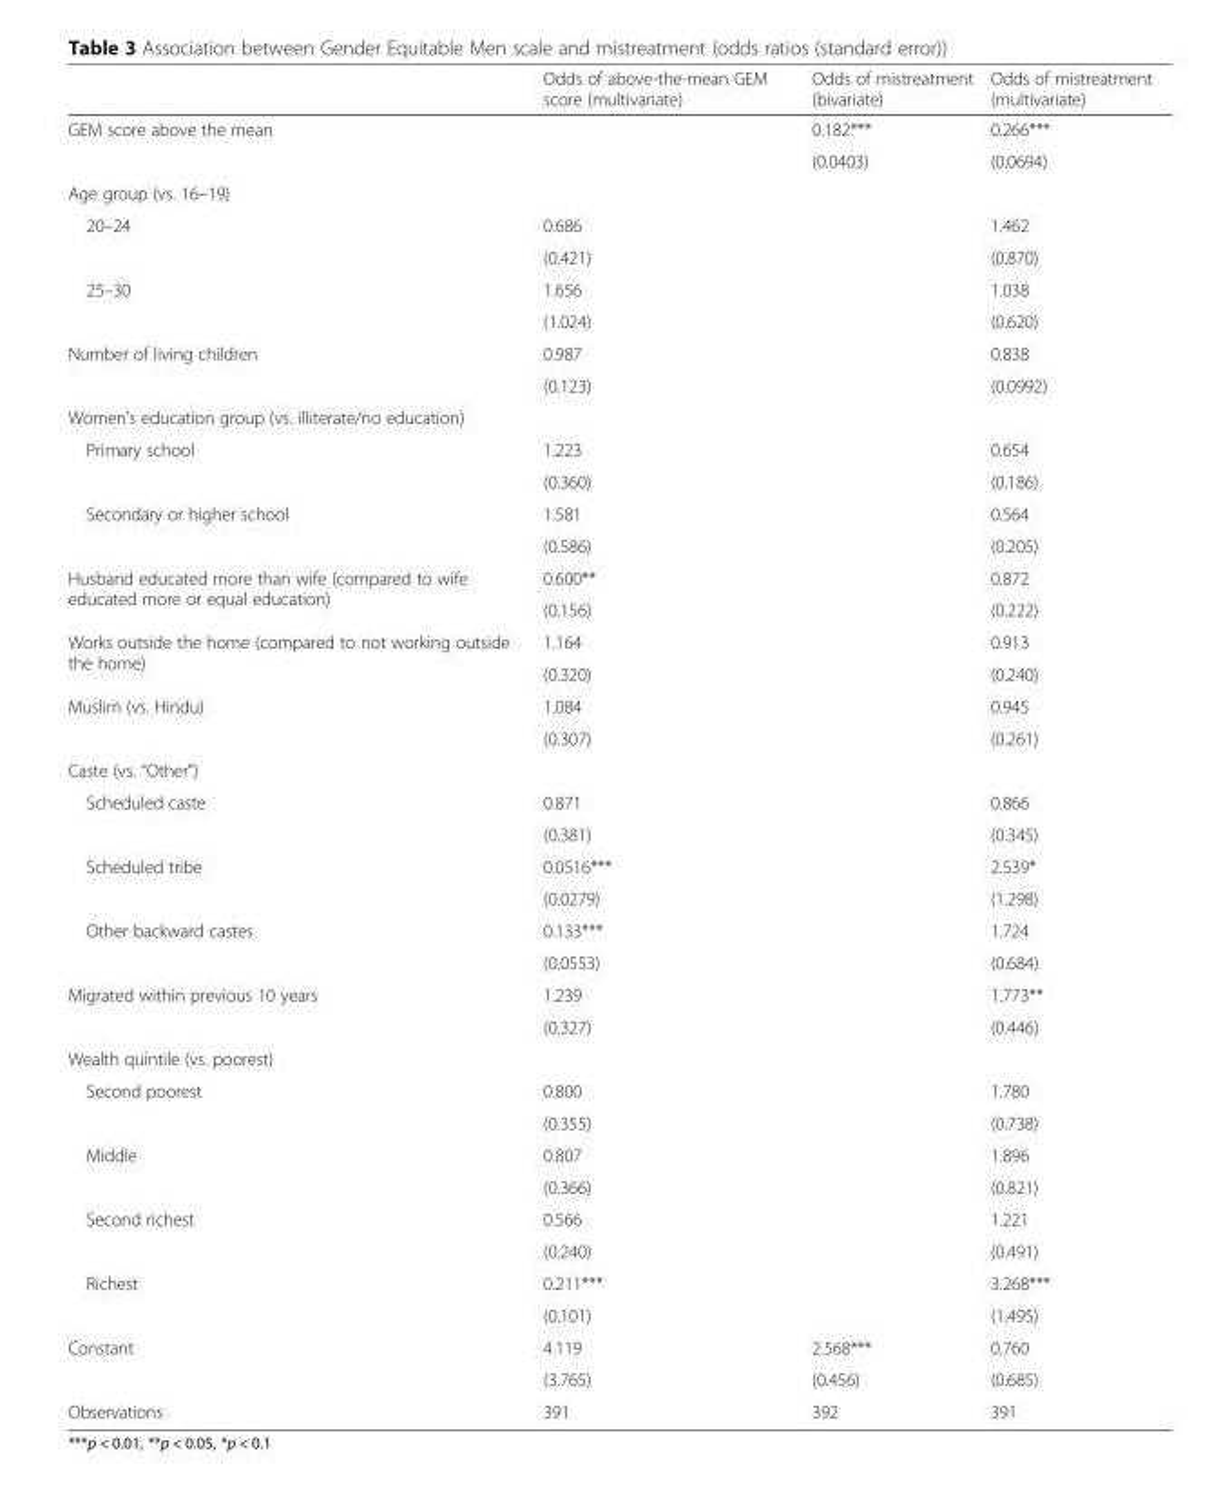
<table><thead><tr><td></td><td>Odds of above-the-mean GEM score (multivariate)</td><td>Odds of mistreatment (bivariate)</td><td>Odds of mistreatment (multivariate)</td></tr></thead><tbody><tr><td rowspan="2">GEM score above the mean</td><td></td><td>0.182***</td><td>0.266***</td></tr><tr><td></td><td>(0.0403)</td><td>(0.0694)</td></tr><tr><td colspan="4">Age group (vs. 16–19)</td></tr><tr><td rowspan="2">20–24</td><td>0.686</td><td></td><td>1.462</td></tr><tr><td>(0.421)</td><td></td><td>(0.870)</td></tr><tr><td rowspan="2">25–30</td><td>1.656</td><td></td><td>1.038</td></tr><tr><td>(1.024)</td><td></td><td>(0.620)</td></tr><tr><td rowspan="2">Number of living children</td><td>0.987</td><td></td><td>0.838</td></tr><tr><td>(0.123)</td><td></td><td>(0.0992)</td></tr><tr><td colspan="4">Women’s education group (vs. illiterate/no education)</td></tr><tr><td rowspan="2">Primary school</td><td>1.223</td><td></td><td>0.654</td></tr><tr><td>(0.360)</td><td></td><td>(0.186)</td></tr><tr><td rowspan="2">Secondary or higher school</td><td>1.581</td><td></td><td>0.564</td></tr><tr><td>(0.586)</td><td></td><td>(0.205)</td></tr><tr><td rowspan="2">Husband educated more than wife (compared to wife educated more or equal education)</td><td>0.600**</td><td></td><td>0.872</td></tr><tr><td>(0.156)</td><td></td><td>(0.222)</td></tr><tr><td rowspan="2">Works outside the home (compared to not working outside the home)</td><td>1.164</td><td></td><td>0.913</td></tr><tr><td>(0.320)</td><td></td><td>(0.240)</td></tr><tr><td rowspan="2">Muslim (vs. Hindu)</td><td>1.084</td><td></td><td>0.945</td></tr><tr><td>(0.307)</td><td></td><td>(0.261)</td></tr><tr><td colspan="4">Caste (vs. “Other”)</td></tr><tr><td rowspan="2">Scheduled caste</td><td>0.871</td><td></td><td>0.866</td></tr><tr><td>(0.381)</td><td></td><td>(0.345)</td></tr><tr><td rowspan="2">Scheduled tribe</td><td>0.0516***</td><td></td><td>2.539*</td></tr><tr><td>(0.0279)</td><td></td><td>(1.298)</td></tr><tr><td rowspan="2">Other backward castes</td><td>0.133***</td><td></td><td>1.724</td></tr><tr><td>(0.0553)</td><td></td><td>(0.684)</td></tr><tr><td rowspan="2">Migrated within previous 10 years</td><td>1.239</td><td></td><td>1.773**</td></tr><tr><td>(0.327)</td><td></td><td>(0.446)</td></tr><tr><td colspan="4">Wealth quintile (vs. poorest)</td></tr><tr><td rowspan="2">Second poorest</td><td>0.800</td><td></td><td>1.780</td></tr><tr><td>(0.355)</td><td></td><td>(0.738)</td></tr><tr><td rowspan="2">Middle</td><td>0.807</td><td></td><td>1.896</td></tr><tr><td>(0.366)</td><td></td><td>(0.821)</td></tr><tr><td rowspan="2">Second richest</td><td>0.566</td><td></td><td>1.221</td></tr><tr><td>(0.240)</td><td></td><td>(0.491)</td></tr><tr><td rowspan="2">Richest</td><td>0.211***</td><td></td><td>3.268***</td></tr><tr><td>(0.101)</td><td></td><td>(1.495)</td></tr><tr><td rowspan="2">Constant</td><td>4.119</td><td>2.568***</td><td>0.760</td></tr><tr><td>(3.765)</td><td>(0.456)</td><td>(0.685)</td></tr><tr><td>Observations</td><td>391</td><td>392</td><td>391</td></tr></tbody></table>